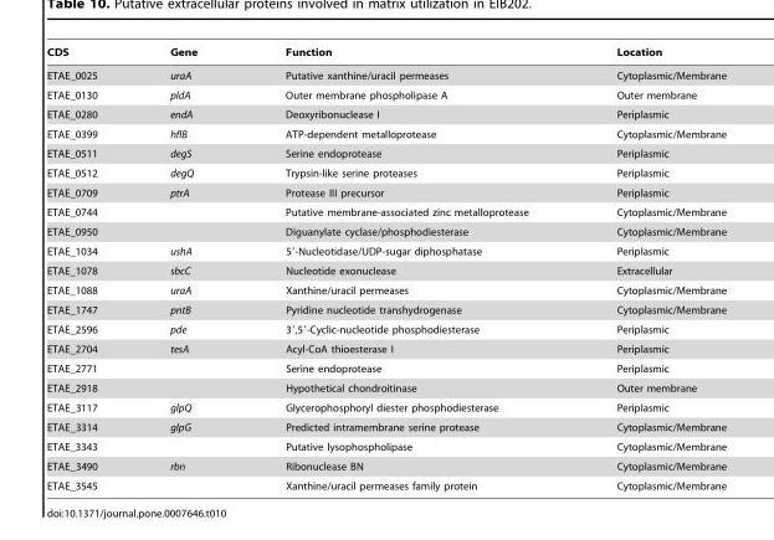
<table><thead><tr><td>CDS</td><td>Gene</td><td>Function</td><td>Location</td></tr></thead><tbody><tr><td>ETAE_0025</td><td>uraA</td><td>Putative xanthine/uracil permeases</td><td>Cytoplasmic/Membrane</td></tr><tr><td>ETAE_0130</td><td>pldA</td><td>Outer membrane phospholipase A</td><td>Outer membrane</td></tr><tr><td>ETAE_0280</td><td>endA</td><td>Deoxyribonuclease I</td><td>Periplasmic</td></tr><tr><td>ETAE_0399</td><td>hflB</td><td>ATP-dependent metalloprotease</td><td>Cytoplasmic/Membrane</td></tr><tr><td>ETAE_0511</td><td>degS</td><td>Serine endoprotease</td><td>Periplasmic</td></tr><tr><td>ETAE_0512</td><td>degQ</td><td>Trypsin-like serine proteases</td><td>Periplasmic</td></tr><tr><td>ETAE_0709</td><td>ptrA</td><td>Protease III precursor</td><td>Periplasmic</td></tr><tr><td>ETAE_0744</td><td></td><td>Putative membrane-associated zinc metalloprotease</td><td>Cytoplasmic/Membrane</td></tr><tr><td>ETAE_0950</td><td></td><td>Diguanylate cyclase/phosphodiesterase</td><td>Cytoplasmic/Membrane</td></tr><tr><td>ETAE_1034</td><td>ushA</td><td>5′-Nucleotidase/UDP-sugar diphosphatase</td><td>Periplasmic</td></tr><tr><td>ETAE_1078</td><td>sbcC</td><td>Nucleotide exonuclease</td><td>Extracellular</td></tr><tr><td>ETAE_1088</td><td>uraA</td><td>Xanthine/uracil permeases</td><td>Cytoplasmic/Membrane</td></tr><tr><td>ETAE_1747</td><td>pntB</td><td>Pyridine nucleotide transhydrogenase</td><td>Cytoplasmic/Membrane</td></tr><tr><td>ETAE_2596</td><td>pde</td><td>3′,5′-Cyclic-nucleotide phosphodiesterase</td><td>Periplasmic</td></tr><tr><td>ETAE_2704</td><td>tesA</td><td>Acyl-CoA thioesterase I</td><td>Periplasmic</td></tr><tr><td>ETAE_2771</td><td></td><td>Serine endoprotease</td><td>Periplasmic</td></tr><tr><td>ETAE_2918</td><td></td><td>Hypothetical chondroitinase</td><td>Outer membrane</td></tr><tr><td>ETAE_3117</td><td>glpQ</td><td>Glycerophosphoryl diester phosphodiesterase</td><td>Periplasmic</td></tr><tr><td>ETAE_3314</td><td>glpG</td><td>Predicted intramembrane serine protease</td><td>Cytoplasmic/Membrane</td></tr><tr><td>ETAE_3343</td><td></td><td>Putative lysophospholipase</td><td>Cytoplasmic/Membrane</td></tr><tr><td>ETAE_3490</td><td>rbn</td><td>Ribonuclease BN</td><td>Cytoplasmic/Membrane</td></tr><tr><td>ETAE_3545</td><td></td><td>Xanthine/uracil permeases family protein</td><td>Cytoplasmic/Membrane</td></tr></tbody></table>